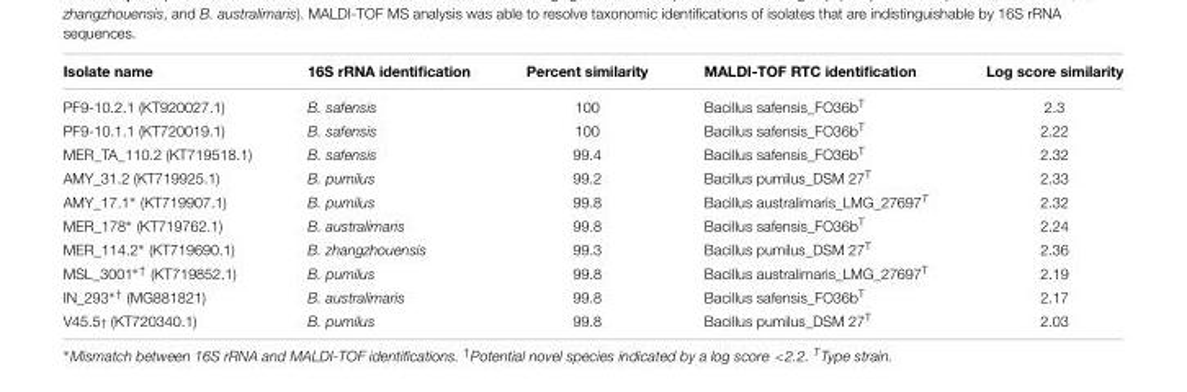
<table><thead><tr><td>Isolate name</td><td>16S rRNA identification</td><td>Percent similarity</td><td>MALDI-TOF RTC identification</td><td>Log score similarity</td></tr></thead><tbody><tr><td>PF9-10.2.1 (KT920027.1)</td><td>B. safensis</td><td>100</td><td>Bacillus safensis_FO36b<sup>T</sup></td><td>2.3</td></tr><tr><td>PF9-10.1.1 (KT720019.1)</td><td>B. safensis</td><td>100</td><td>Bacillus safensis_FO36b<sup>T</sup></td><td>2.22</td></tr><tr><td>MER_TA_110.2 (KT719518.1)</td><td>B. safensis</td><td>99.4</td><td>Bacillus safensis_FO36b<sup>T</sup></td><td>2.32</td></tr><tr><td>AMY_31.2 (KT719925.1)</td><td>B. pumilus</td><td>99.2</td><td>Bacillus pumilus_DSM 27<sup>T</sup></td><td>2.33</td></tr><tr><td>AMY_17.1∗ (KT719907.1)</td><td>B. pumilus</td><td>99.8</td><td>Bacillus australimaris_LMG_27697<sup>T</sup></td><td>2.32</td></tr><tr><td>MER_178∗ (KT719762.1)</td><td>B. australimaris</td><td>99.8</td><td>Bacillus safensis_FO36b<sup>T</sup></td><td>2.24</td></tr><tr><td>MER_114.2∗ (KT719690.1)</td><td>B. zhangzhouensis</td><td>99.3</td><td>Bacillus pumilus_DSM 27<sup>T</sup></td><td>2.36</td></tr><tr><td>MSL_3001<sup>∗†</sup> (KT719852.1)</td><td>B. pumilus</td><td>99.8</td><td>Bacillus australimaris_LMG_27697<sup>T</sup></td><td>2.19</td></tr><tr><td>IN_293<sup>∗†</sup> (MG881821)</td><td>B. australimaris</td><td>99.8</td><td>Bacillus safensis_FO36b<sup>T</sup></td><td>2.17</td></tr><tr><td>V45.5† (KT720340.1)</td><td>B. pumilus</td><td>99.8</td><td>Bacillus pumilus_DSM 27<sup>T</sup></td><td>2.03</td></tr></tbody></table>